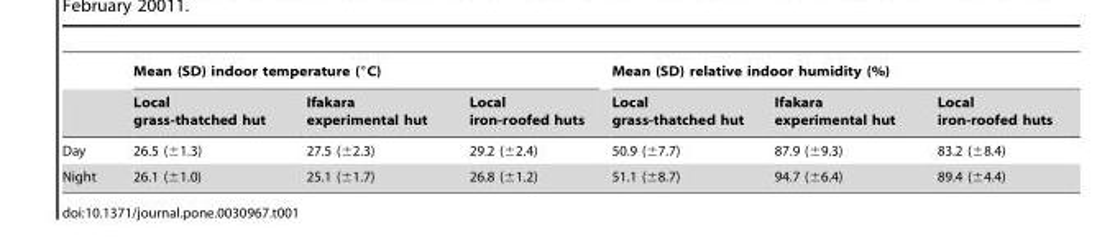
<table><thead><tr><td rowspan="2"></td><td colspan="3">Mean (SD) indoor temperature (°C)</td><td colspan="3">Mean (SD) relative indoor humidity (%)</td></tr><tr><td>Local grass-thatched hut</td><td>Ifakara experimental hut</td><td>Local iron-roofed huts</td><td>Local grass-thatched hut</td><td>Ifakara experimental hut</td><td>Local iron-roofed huts</td></tr></thead><tbody><tr><td>Day</td><td>26.5 (±1.3)</td><td>27.5 (±2.3)</td><td>29.2 (±2.4)</td><td>50.9 (±7.7)</td><td>87.9 (±9.3)</td><td>83.2 (±8.4)</td></tr><tr><td>Night</td><td>26.1 (±1.0)</td><td>25.1 (±1.7)</td><td>26.8 (±1.2)</td><td>51.1 (±8.7)</td><td>94.7 (±6.4)</td><td>89.4 (±4.4)</td></tr></tbody></table>